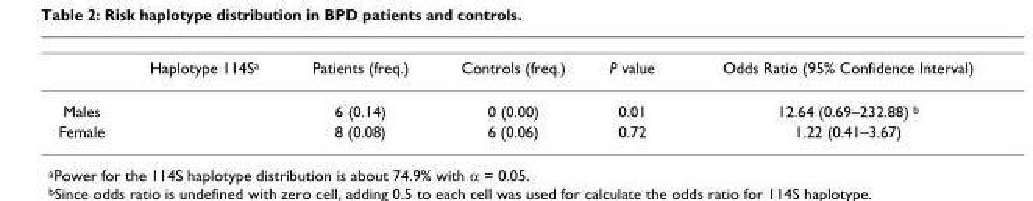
<table><thead><tr><td></td><td>Haplotype 114S<sup>a</sup></td><td>Patients (freq.)</td><td>Controls (freq.)</td><td>P value</td><td>Odds Ratio (95% Confidence Interval)</td></tr></thead><tbody><tr><td>Males</td><td></td><td>6 (0.14)</td><td>0 (0.00)</td><td>0.01</td><td>12.64 (0.69–232.88) <sup>b</sup></td></tr><tr><td>Female</td><td></td><td>8 (0.08)</td><td>6 (0.06)</td><td>0.72</td><td>1.22 (0.41–3.67)</td></tr></tbody></table>